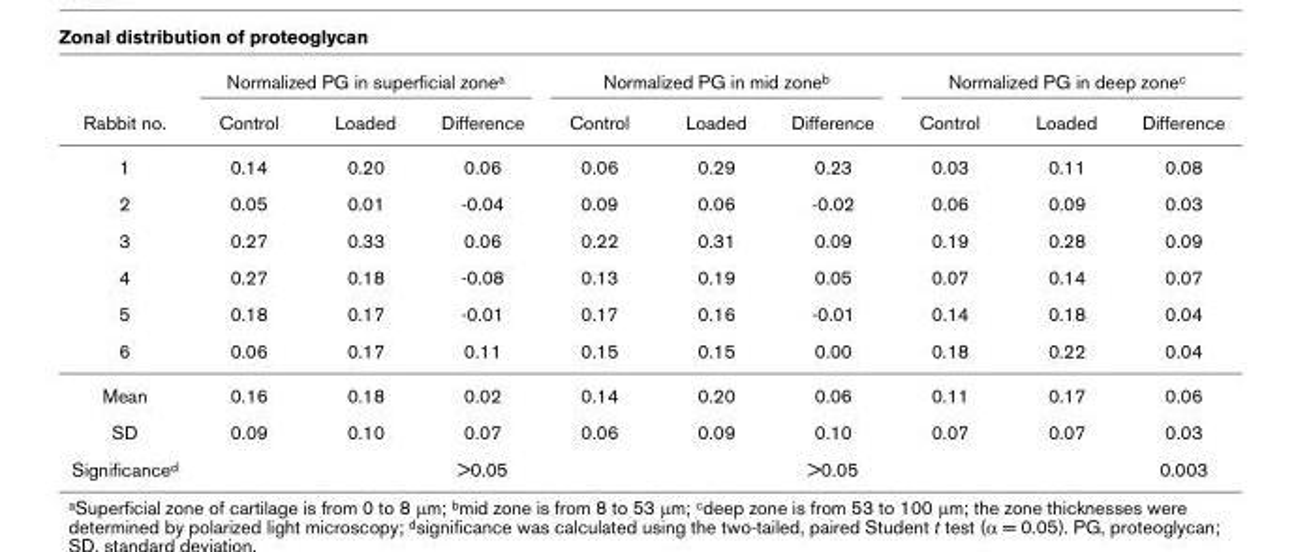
<table><thead><tr><td rowspan="2">Rabbit no.</td><td colspan="3">Normalized PG in superficial zonea</td><td colspan="3">Normalized PG in mid zoneb</td><td colspan="3">Normalized PG in deep zonec</td></tr><tr><td>Control</td><td>Loaded</td><td>Difference</td><td>Control</td><td>Loaded</td><td>Difference</td><td>Control</td><td>Loaded</td><td>Difference</td></tr></thead><tbody><tr><td>1</td><td>0.14</td><td>0.20</td><td>0.06</td><td>0.06</td><td>0.29</td><td>0.23</td><td>0.03</td><td>0.11</td><td>0.08</td></tr><tr><td>2</td><td>0.05</td><td>0.01</td><td>-0.04</td><td>0.09</td><td>0.06</td><td>-0.02</td><td>0.06</td><td>0.09</td><td>0.03</td></tr><tr><td>3</td><td>0.27</td><td>0.33</td><td>0.06</td><td>0.22</td><td>0.31</td><td>0.09</td><td>0.19</td><td>0.28</td><td>0.09</td></tr><tr><td>4</td><td>0.27</td><td>0.18</td><td>-0.08</td><td>0.13</td><td>0.19</td><td>0.05</td><td>0.07</td><td>0.14</td><td>0.07</td></tr><tr><td>5</td><td>0.18</td><td>0.17</td><td>-0.01</td><td>0.17</td><td>0.16</td><td>-0.01</td><td>0.14</td><td>0.18</td><td>0.04</td></tr><tr><td>6</td><td>0.06</td><td>0.17</td><td>0.11</td><td>0.15</td><td>0.15</td><td>0.00</td><td>0.18</td><td>0.22</td><td>0.04</td></tr><tr><td>Mean</td><td>0.16</td><td>0.18</td><td>0.02</td><td>0.14</td><td>0.20</td><td>0.06</td><td>0.11</td><td>0.17</td><td>0.06</td></tr><tr><td>SD</td><td>0.09</td><td>0.10</td><td>0.07</td><td>0.06</td><td>0.09</td><td>0.10</td><td>0.07</td><td>0.07</td><td>0.03</td></tr><tr><td>Significanced</td><td></td><td></td><td>&gt;0.05</td><td></td><td></td><td>&gt;0.05</td><td></td><td></td><td>0.003</td></tr></tbody></table>